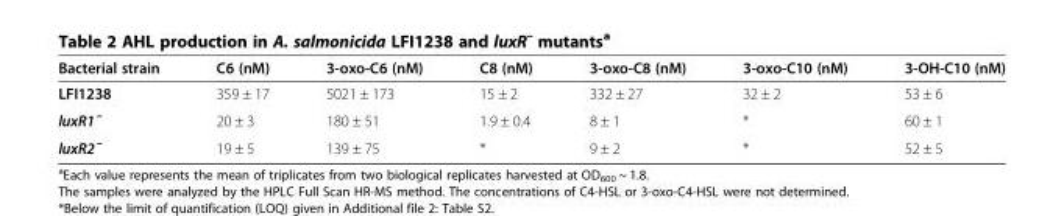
<table><thead><tr><td>Bacterial strain</td><td>C6 (nM)</td><td>3-oxo-C6 (nM)</td><td>C8 (nM)</td><td>3-oxo-C8 (nM)</td><td>3-oxo-C10 (nM)</td><td>3-OH-C10 (nM)</td></tr></thead><tbody><tr><td>LFI1238</td><td>359 ± 17</td><td>5021 ± 173</td><td>15 ± 2</td><td>332 ± 27</td><td>32 ± 2</td><td>53 ± 6</td></tr><tr><td>luxR1ˉ</td><td>20 ± 3</td><td>180 ± 51</td><td>1.9 ± 0.4</td><td>8 ± 1</td><td>*</td><td>60 ± 1</td></tr><tr><td>luxR2ˉ</td><td>19 ± 5</td><td>139 ± 75</td><td>*</td><td>9 ± 2</td><td>*</td><td>52 ± 5</td></tr></tbody></table>